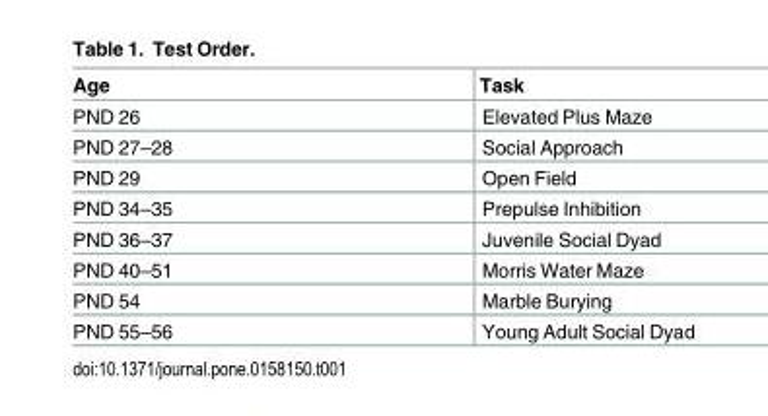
<table><thead><tr><td>Age</td><td>Task</td></tr></thead><tbody><tr><td>PND 26</td><td>Elevated Plus Maze</td></tr><tr><td>PND 27–28</td><td>Social Approach</td></tr><tr><td>PND 29</td><td>Open Field</td></tr><tr><td>PND 34–35</td><td>Prepulse Inhibition</td></tr><tr><td>PND 36–37</td><td>Juvenile Social Dyad</td></tr><tr><td>PND 40–51</td><td>Morris Water Maze</td></tr><tr><td>PND 54</td><td>Marble Burying</td></tr><tr><td>PND 55–56</td><td>Young Adult Social Dyad</td></tr></tbody></table>